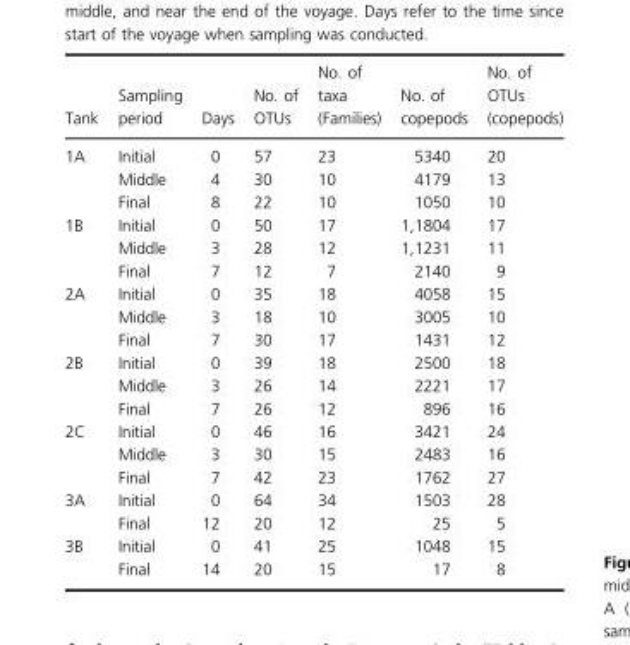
<table><thead><tr><td>Tank</td><td>Sampling period</td><td>Days</td><td>No. of OTUs</td><td>No. of taxa (Families)</td><td>No. of copepods</td><td>No. of OTUs (copepods)</td></tr></thead><tbody><tr><td rowspan="3">1A</td><td>Initial</td><td>0</td><td>57</td><td>23</td><td>5340</td><td>20</td></tr><tr><td>Middle</td><td>4</td><td>30</td><td>10</td><td>4179</td><td>13</td></tr><tr><td>Final</td><td>8</td><td>22</td><td>10</td><td>1050</td><td>10</td></tr><tr><td rowspan="3">1B</td><td>Initial</td><td>0</td><td>50</td><td>17</td><td>1,1804</td><td>17</td></tr><tr><td>Middle</td><td>3</td><td>28</td><td>12</td><td>1,1231</td><td>11</td></tr><tr><td>Final</td><td>7</td><td>12</td><td>7</td><td>2140</td><td>9</td></tr><tr><td rowspan="3">2A</td><td>Initial</td><td>0</td><td>35</td><td>18</td><td>4058</td><td>15</td></tr><tr><td>Middle</td><td>3</td><td>18</td><td>10</td><td>3005</td><td>10</td></tr><tr><td>Final</td><td>7</td><td>30</td><td>17</td><td>1431</td><td>12</td></tr><tr><td rowspan="3">2B</td><td>Initial</td><td>0</td><td>39</td><td>18</td><td>2500</td><td>18</td></tr><tr><td>Middle</td><td>3</td><td>26</td><td>14</td><td>2221</td><td>17</td></tr><tr><td>Final</td><td>7</td><td>26</td><td>12</td><td>896</td><td>16</td></tr><tr><td rowspan="3">2C</td><td>Initial</td><td>0</td><td>46</td><td>16</td><td>3421</td><td>24</td></tr><tr><td>Middle</td><td>3</td><td>30</td><td>15</td><td>2483</td><td>16</td></tr><tr><td>Final</td><td>7</td><td>42</td><td>23</td><td>1762</td><td>27</td></tr><tr><td rowspan="2">3A</td><td>Initial</td><td>0</td><td>64</td><td>34</td><td>1503</td><td>28</td></tr><tr><td>Final</td><td>12</td><td>20</td><td>12</td><td>25</td><td>5</td></tr><tr><td rowspan="2">3B</td><td>Initial</td><td>0</td><td>41</td><td>25</td><td>1048</td><td>15</td></tr><tr><td>Final</td><td>14</td><td>20</td><td>15</td><td>17</td><td>8</td></tr></tbody></table>